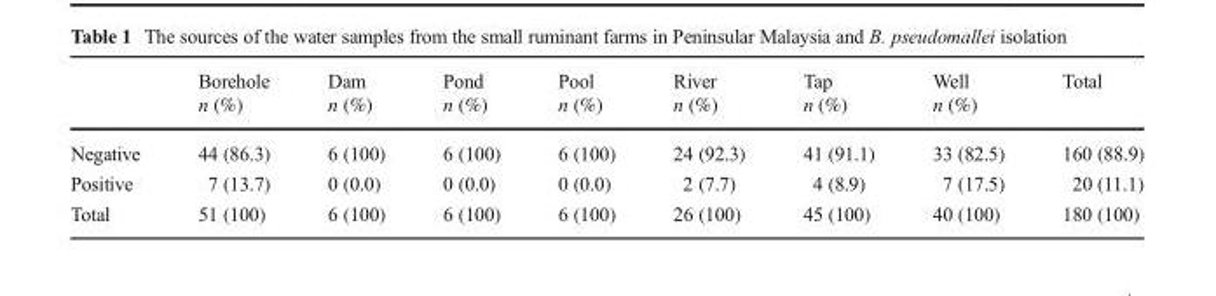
<table><thead><tr><td></td><td>Borehole n (%)</td><td>Dam n (%)</td><td>Pond n (%)</td><td>Pool n (%)</td><td>River n (%)</td><td>Tap n (%)</td><td>Well n (%)</td><td>Total</td></tr></thead><tbody><tr><td>Negative</td><td>44 (86.3)</td><td>6 (100)</td><td>6 (100)</td><td>6 (100)</td><td>24 (92.3)</td><td>41 (91.1)</td><td>33 (82.5)</td><td>160 (88.9)</td></tr><tr><td>Positive</td><td>7 (13.7)</td><td>0 (0.0)</td><td>0 (0.0)</td><td>0 (0.0)</td><td>2 (7.7)</td><td>4 (8.9)</td><td>7 (17.5)</td><td>20 (11.1)</td></tr><tr><td>Total</td><td>51 (100)</td><td>6 (100)</td><td>6 (100)</td><td>6 (100)</td><td>26 (100)</td><td>45 (100)</td><td>40 (100)</td><td>180 (100)</td></tr></tbody></table>